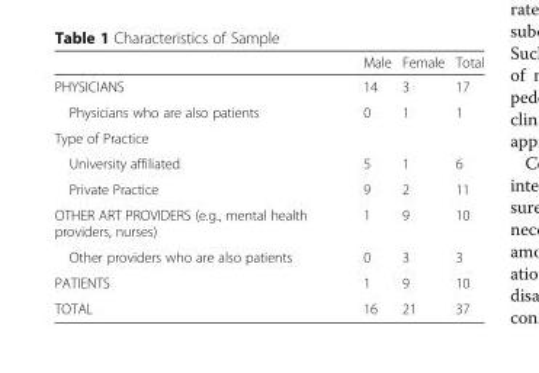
<table><thead><tr><td></td><td>Male</td><td>Female</td><td>Total</td></tr></thead><tbody><tr><td>PHYSICIANS</td><td>14</td><td>3</td><td>17</td></tr><tr><td>Physicians who are also patients</td><td>0</td><td>1</td><td>1</td></tr><tr><td colspan="4">Type of Practice</td></tr><tr><td>University affiliated</td><td>5</td><td>1</td><td>6</td></tr><tr><td>Private Practice</td><td>9</td><td>2</td><td>11</td></tr><tr><td>OTHER ART PROVIDERS (e.g., mental health providers, nurses)</td><td>1</td><td>9</td><td>10</td></tr><tr><td>Other providers who are also patients</td><td>0</td><td>3</td><td>3</td></tr><tr><td>PATIENTS</td><td>1</td><td>9</td><td>10</td></tr><tr><td>TOTAL</td><td>16</td><td>21</td><td>37</td></tr></tbody></table>